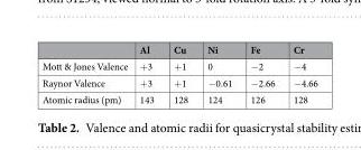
<table><thead><tr><td></td><td>Al</td><td>Cu</td><td>Ni</td><td>Fe</td><td>Cr</td></tr></thead><tbody><tr><td>Mott &amp; Jones Valence</td><td>+3</td><td>+1</td><td>0</td><td>−2</td><td>−4</td></tr><tr><td>Raynor Valence</td><td>+3</td><td>+1</td><td>−0.61</td><td>−2.66</td><td>−4.66</td></tr><tr><td>Atomic radius (pm)</td><td>143</td><td>128</td><td>124</td><td>126</td><td>128</td></tr></tbody></table>